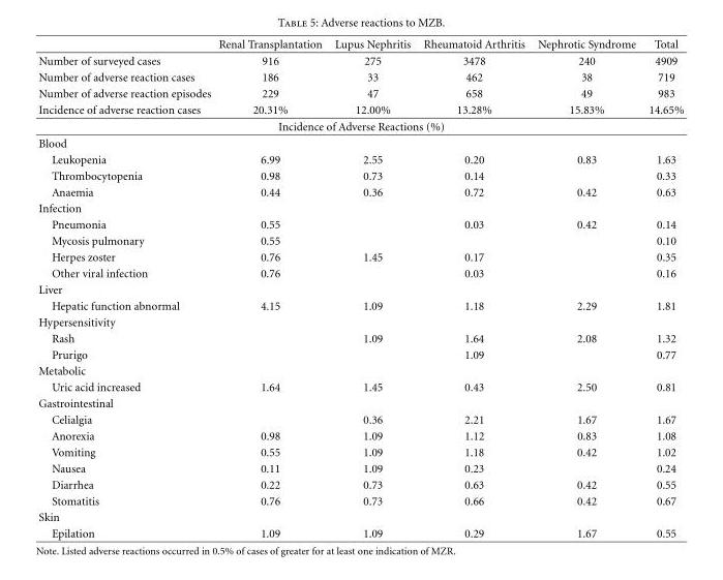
<table><thead><tr><td></td><td>Renal Transplantation</td><td>Lupus Nephritis</td><td>Rheumatoid Arthritis</td><td>Nephrotic Syndrome</td><td>Total</td></tr></thead><tbody><tr><td>Number of surveyed cases</td><td>916</td><td>275</td><td>3478</td><td>240</td><td>4909</td></tr><tr><td>Number of adverse reaction cases</td><td>186</td><td>33</td><td>462</td><td>38</td><td>719</td></tr><tr><td>Number of adverse reaction episodes</td><td>229</td><td>47</td><td>658</td><td>49</td><td>983</td></tr><tr><td>Incidence of adverse reaction cases</td><td>20.31%</td><td>12.00%</td><td>13.28%</td><td>15.83%</td><td>14.65%</td></tr><tr><td colspan="6">Incidence of Adverse Reactions (%)</td></tr><tr><td colspan="6">Blood</td></tr><tr><td>Leukopenia</td><td>6.99</td><td>2.55</td><td>0.20</td><td>0.83</td><td>1.63</td></tr><tr><td>Thrombocytopenia</td><td>0.98</td><td>0.73</td><td>0.14</td><td></td><td>0.33</td></tr><tr><td>Anaemia</td><td>0.44</td><td>0.36</td><td>0.72</td><td>0.42</td><td>0.63</td></tr><tr><td colspan="6">Infection</td></tr><tr><td>Pneumonia</td><td>0.55</td><td></td><td>0.03</td><td>0.42</td><td>0.14</td></tr><tr><td>Mycosis pulmonary</td><td>0.55</td><td></td><td></td><td></td><td>0.10</td></tr><tr><td>Herpes zoster</td><td>0.76</td><td>1.45</td><td>0.17</td><td></td><td>0.35</td></tr><tr><td>Other viral infection</td><td>0.76</td><td></td><td>0.03</td><td></td><td>0.16</td></tr><tr><td colspan="6">Liver</td></tr><tr><td>Hepatic function abnormal</td><td>4.15</td><td>1.09</td><td>1.18</td><td>2.29</td><td>1.81</td></tr><tr><td colspan="6">Hypersensitivity</td></tr><tr><td>Rash</td><td></td><td>1.09</td><td>1.64</td><td>2.08</td><td>1.32</td></tr><tr><td>Prurigo</td><td></td><td></td><td>1.09</td><td></td><td>0.77</td></tr><tr><td colspan="6">Metabolic</td></tr><tr><td>Uric acid increased</td><td>1.64</td><td>1.45</td><td>0.43</td><td>2.50</td><td>0.81</td></tr><tr><td colspan="6">Gastrointestinal</td></tr><tr><td>Celialgia</td><td></td><td>0.36</td><td>2.21</td><td>1.67</td><td>1.67</td></tr><tr><td>Anorexia</td><td>0.98</td><td>1.09</td><td>1.12</td><td>0.83</td><td>1.08</td></tr><tr><td>Vomiting</td><td>0.55</td><td>1.09</td><td>1.18</td><td>0.42</td><td>1.02</td></tr><tr><td>Nausea</td><td>0.11</td><td>1.09</td><td>0.23</td><td></td><td>0.24</td></tr><tr><td>Diarrhea</td><td>0.22</td><td>0.73</td><td>0.63</td><td>0.42</td><td>0.55</td></tr><tr><td>Stomatitis</td><td>0.76</td><td>0.73</td><td>0.66</td><td>0.42</td><td>0.67</td></tr><tr><td colspan="6">Skin</td></tr><tr><td>Epilation</td><td>1.09</td><td>1.09</td><td>0.29</td><td>1.67</td><td>0.55</td></tr></tbody></table>